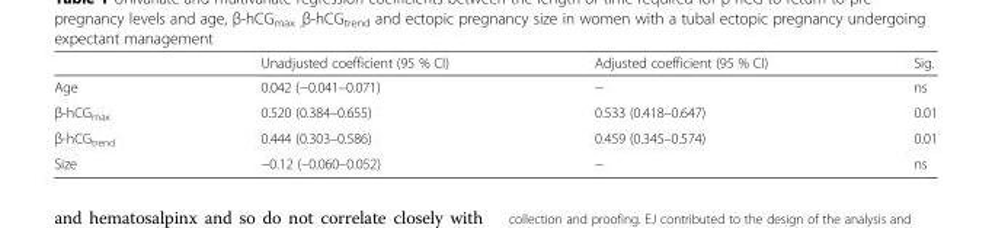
<table><thead><tr><td></td><td>Unadjusted coefficient (95 % CI)</td><td>Adjusted coefficient (95 % CI)</td><td>Sig.</td></tr></thead><tbody><tr><td>Age</td><td>0.042 (−0.041–0.071)</td><td>−</td><td>ns</td></tr><tr><td>β-hCG<sub>max</sub></td><td>0.520 (0.384–0.655)</td><td>0.533 (0.418–0.647)</td><td>0.01</td></tr><tr><td>β-hCG<sub>trend</sub></td><td>0.444 (0.303–0.586)</td><td>0.459 (0.345–0.574)</td><td>0.01</td></tr><tr><td>Size</td><td>−0.12 (–0.060–0.052)</td><td>−</td><td>ns</td></tr></tbody></table>